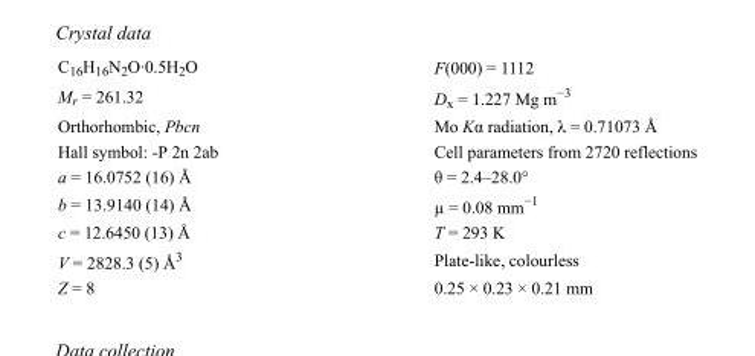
<table><tbody><tr><td>C<sub>16</sub>H<sub>16</sub>N<sub>2</sub>O·0.5H<sub>2</sub>O</td><td>F(000) = 1112</td></tr><tr><td>M<sub>r</sub> = 261.32</td><td>D<sub>x</sub> = 1.227 Mg m<sup>−3</sup></td></tr><tr><td>Orthorhombic, Pbcn</td><td>Mo Kα radiation, λ = 0.71073 Å</td></tr><tr><td>Hall symbol: -P 2n 2ab</td><td>Cell parameters from 2720 reflections</td></tr><tr><td>a = 16.0752 (16) Å</td><td>θ = 2.4–28.0°</td></tr><tr><td>b = 13.9140 (14) Å</td><td>µ = 0.08 mm<sup>−1</sup></td></tr><tr><td>c = 12.6450 (13) Å</td><td>T = 293 K</td></tr><tr><td>V = 2828.3 (5) Å<sup>3</sup></td><td>Plate-like, colourless</td></tr><tr><td>Z = 8</td><td>0.25 × 0.23 × 0.21 mm</td></tr></tbody></table>